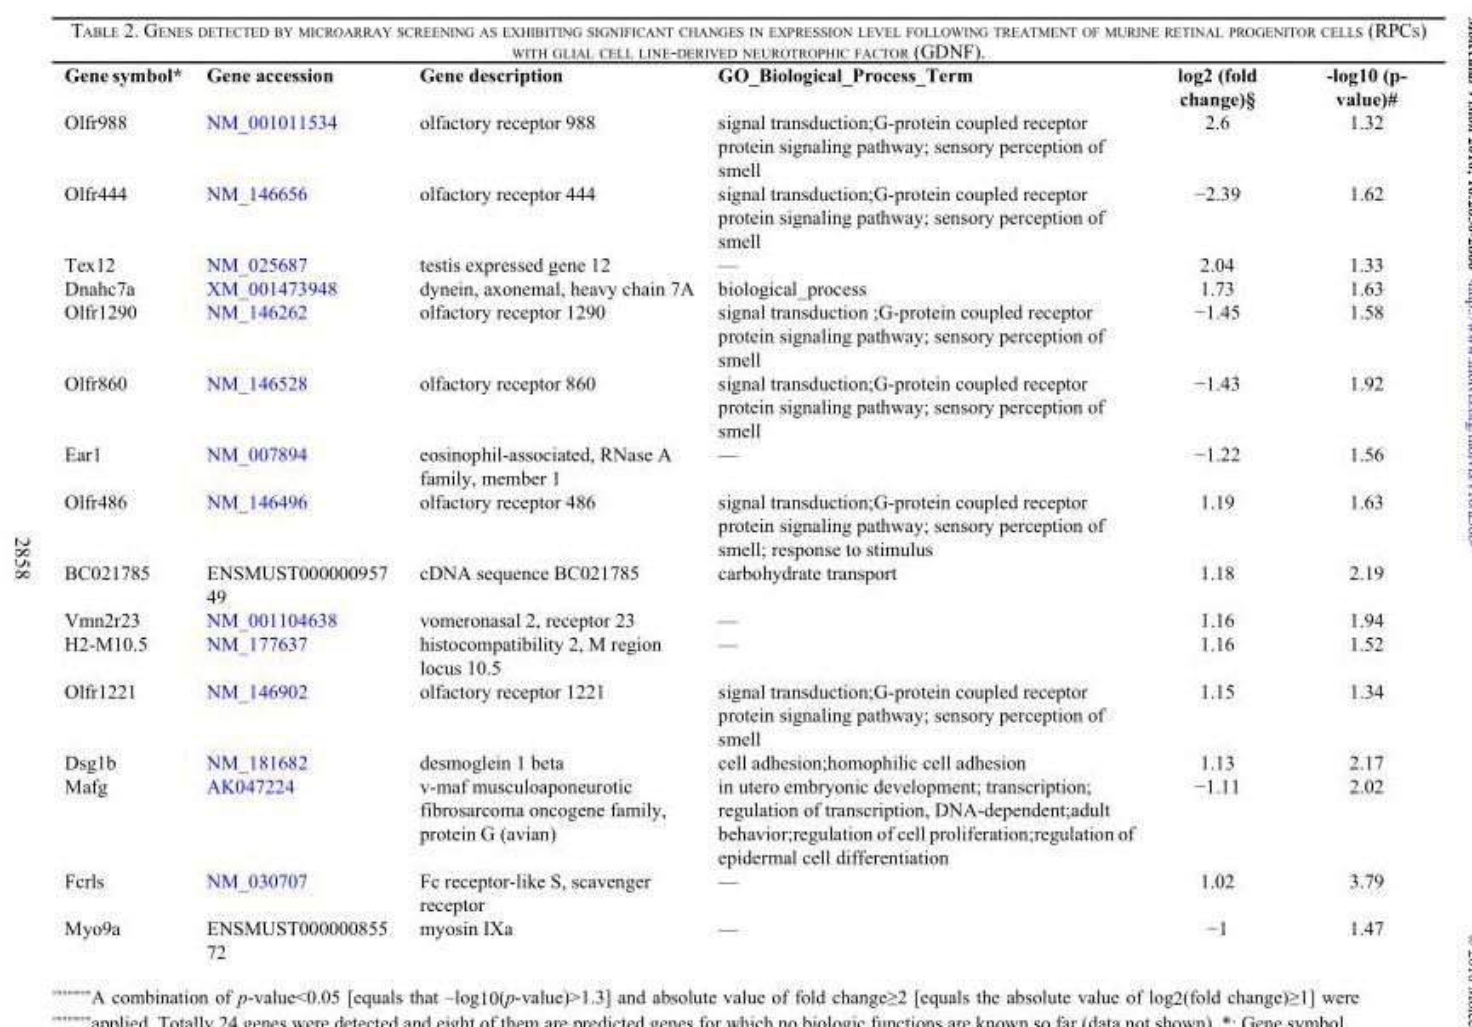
<table><thead><tr><td>Gene symbol*</td><td>Gene accession</td><td>Gene description</td><td>GO_Biological_Process_Term</td><td>log2 (fold change)§</td><td>-log10 (p- value)#</td></tr></thead><tbody><tr><td>Olfr988</td><td>NM_001011534</td><td>olfactory receptor 988</td><td>signal transduction;G-protein coupled receptor protein signaling pathway; sensory perception of smell</td><td>2.6</td><td>1.32</td></tr><tr><td>Olfr444</td><td>NM_146656</td><td>olfactory receptor 444</td><td>signal transduction;G-protein coupled receptor protein signaling pathway; sensory perception of smell</td><td>−2.39</td><td>1.62</td></tr><tr><td>Tex12</td><td>NM_025687</td><td>testis expressed gene 12</td><td>—</td><td>2.04</td><td>1.33</td></tr><tr><td>Dnahc7a</td><td>XM_001473948</td><td>dynein, axonemal, heavy chain 7A</td><td>biological_process</td><td>1.73</td><td>1.63</td></tr><tr><td>Olfr1290</td><td>NM_146262</td><td>olfactory receptor 1290</td><td>signal transduction ;G-protein coupled receptor protein signaling pathway; sensory perception of smell</td><td>−1.45</td><td>1.58</td></tr><tr><td>Olfr860</td><td>NM_146528</td><td>olfactory receptor 860</td><td>signal transduction;G-protein coupled receptor protein signaling pathway; sensory perception of smell</td><td>−1.43</td><td>1.92</td></tr><tr><td>Ear1</td><td>NM_007894</td><td>eosinophil-associated, RNase A family, member 1</td><td>—</td><td>−1.22</td><td>1.56</td></tr><tr><td>Olfr486</td><td>NM_146496</td><td>olfactory receptor 486</td><td>signal transduction;G-protein coupled receptor protein signaling pathway; sensory perception of smell; response to stimulus</td><td>1.19</td><td>1.63</td></tr><tr><td>BC021785</td><td>ENSMUST000000957 49</td><td>cDNA sequence BC021785</td><td>carbohydrate transport</td><td>1.18</td><td>2.19</td></tr><tr><td>Vmn2r23</td><td>NM_001104638</td><td>vomeronasal 2, receptor 23</td><td>—</td><td>1.16</td><td>1.94</td></tr><tr><td>H2-M10.5</td><td>NM_177637</td><td>histocompatibility 2, M region locus 10.5</td><td>—</td><td>1.16</td><td>1.52</td></tr><tr><td>Olfr1221</td><td>NM_146902</td><td>olfactory receptor 1221</td><td>signal transduction;G-protein coupled receptor protein signaling pathway; sensory perception of smell</td><td>1.15</td><td>1.34</td></tr><tr><td>Dsg1b</td><td>NM_181682</td><td>desmoglein 1 beta</td><td>cell adhesion;homophilic cell adhesion</td><td>1.13</td><td>2.17</td></tr><tr><td>Mafg</td><td>AK047224</td><td>v-maf musculoaponeurotic fibrosarcoma oncogene family, protein G (avian)</td><td>in utero embryonic development; transcription; regulation of transcription, DNA-dependent;adult behavior;regulation of cell proliferation;regulation of epidermal cell differentiation</td><td>−1.11</td><td>2.02</td></tr><tr><td>Fcrls</td><td>NM_030707</td><td>Fc receptor-like S, scavenger receptor</td><td>—</td><td>1.02</td><td>3.79</td></tr><tr><td>Myo9a</td><td>ENSMUST000000855 72</td><td>myosin IXa</td><td>—</td><td>−1</td><td>1.47</td></tr></tbody></table>